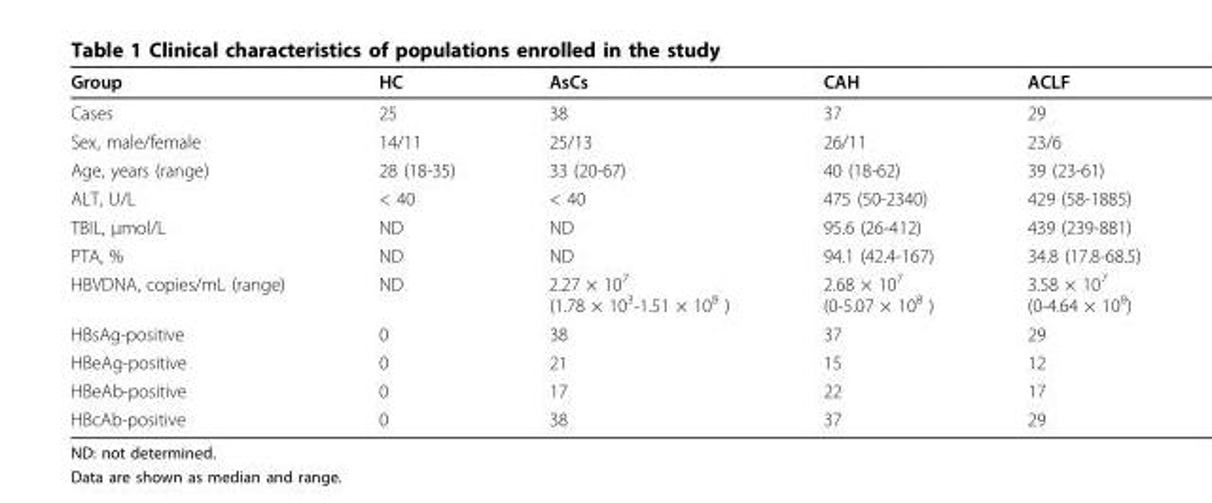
<table><thead><tr><td>Group</td><td>HC</td><td>AsCs</td><td>CAH</td><td>ACLF</td></tr></thead><tbody><tr><td>Cases</td><td>25</td><td>38</td><td>37</td><td>29</td></tr><tr><td>Sex, male/female</td><td>14/11</td><td>25/13</td><td>26/11</td><td>23/6</td></tr><tr><td>Age, years (range)</td><td>28 (18-35)</td><td>33 (20-67)</td><td>40 (18-62)</td><td>39 (23-61)</td></tr><tr><td>ALT, U/L</td><td>&lt; 40</td><td>&lt; 40</td><td>475 (50-2340)</td><td>429 (58-1885)</td></tr><tr><td>TBIL, μmol/L</td><td>ND</td><td>ND</td><td>95.6 (26-412)</td><td>439 (239-881)</td></tr><tr><td>PTA, %</td><td>ND</td><td>ND</td><td>94.1 (42.4-167)</td><td>34.8 (17.8-68.5)</td></tr><tr><td>HBVDNA, copies/mL (range)</td><td>ND</td><td>2.27 × 10<sup>7</sup> (1.78 × 10<sup>3</sup>-1.51 × 10<sup>8</sup> )</td><td>2.68 × 10<sup>7</sup> (0-5.07 × 10<sup>8</sup> )</td><td>3.58 × 10<sup>7</sup> (0-4.64 × 10<sup>8</sup>)</td></tr><tr><td>HBsAg-positive</td><td>0</td><td>38</td><td>37</td><td>29</td></tr><tr><td>HBeAg-positive</td><td>0</td><td>21</td><td>15</td><td>12</td></tr><tr><td>HBeAb-positive</td><td>0</td><td>17</td><td>22</td><td>17</td></tr><tr><td>HBcAb-positive</td><td>0</td><td>38</td><td>37</td><td>29</td></tr></tbody></table>